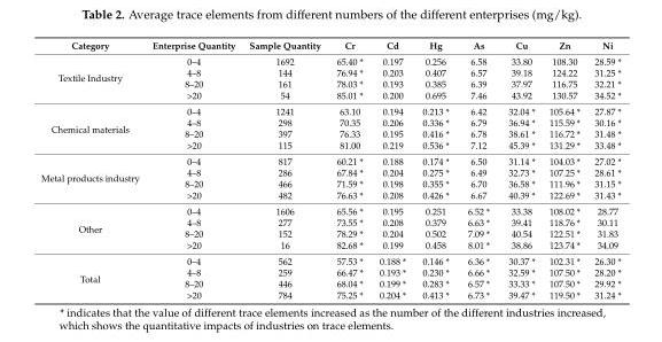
<table><thead><tr><td>Category</td><td>Enterprise Quantity</td><td>Sample Quantity</td><td>Cr</td><td>Cd</td><td>Hg</td><td>As</td><td>Cu</td><td>Zn</td><td>Ni</td></tr></thead><tbody><tr><td rowspan="4">Textile Industry</td><td>0–4</td><td>1692</td><td>65.40 *</td><td>0.197</td><td>0.256</td><td>6.58</td><td>33.80</td><td>108.30</td><td>28.59 *</td></tr><tr><td>4–8</td><td>144</td><td>76.94 *</td><td>0.203</td><td>0.407</td><td>6.57</td><td>39.18</td><td>124.22</td><td>31.25 *</td></tr><tr><td>8–20</td><td>161</td><td>78.03 *</td><td>0.193</td><td>0.385</td><td>6.39</td><td>37.97</td><td>116.75</td><td>32.21 *</td></tr><tr><td>&gt;20</td><td>54</td><td>85.01 *</td><td>0.200</td><td>0.695</td><td>7.46</td><td>43.92</td><td>130.57</td><td>34.52 *</td></tr><tr><td rowspan="4">Chemical materials</td><td>0–4</td><td>1241</td><td>63.10</td><td>0.194</td><td>0.213 *</td><td>6.42</td><td>32.04 *</td><td>105.64 *</td><td>27.87 *</td></tr><tr><td>4–8</td><td>298</td><td>70.35</td><td>0.206</td><td>0.336 *</td><td>6.79</td><td>36.94 *</td><td>115.59 *</td><td>30.16 *</td></tr><tr><td>8–20</td><td>397</td><td>76.33</td><td>0.195</td><td>0.416 *</td><td>6.78</td><td>38.61 *</td><td>116.72 *</td><td>31.48 *</td></tr><tr><td>&gt;20</td><td>115</td><td>81.00</td><td>0.219</td><td>0.536 *</td><td>7.12</td><td>45.39 *</td><td>131.29 *</td><td>33.48 *</td></tr><tr><td rowspan="4">Metal products industry</td><td>0–4</td><td>817</td><td>60.21 *</td><td>0.188</td><td>0.174 *</td><td>6.50</td><td>31.14 *</td><td>104.03 *</td><td>27.02 *</td></tr><tr><td>4–8</td><td>286</td><td>67.84 *</td><td>0.204</td><td>0.275 *</td><td>6.49</td><td>32.73 *</td><td>107.25 *</td><td>28.61 *</td></tr><tr><td>8–20</td><td>466</td><td>71.59 *</td><td>0.198</td><td>0.355 *</td><td>6.70</td><td>36.58 *</td><td>111.96 *</td><td>31.15 *</td></tr><tr><td>&gt;20</td><td>482</td><td>76.63 *</td><td>0.208</td><td>0.426 *</td><td>6.67</td><td>40.39 *</td><td>122.69 *</td><td>31.43 *</td></tr><tr><td rowspan="4">Other</td><td>0–4</td><td>1606</td><td>65.56 *</td><td>0.195</td><td>0.251</td><td>6.52 *</td><td>33.38</td><td>108.02 *</td><td>28.77</td></tr><tr><td>4–8</td><td>277</td><td>73.55 *</td><td>0.208</td><td>0.379</td><td>6.63 *</td><td>39.41</td><td>118.76 *</td><td>30.11</td></tr><tr><td>8–20</td><td>152</td><td>78.29 *</td><td>0.204</td><td>0.502</td><td>7.09 *</td><td>40.54</td><td>122.51 *</td><td>31.83</td></tr><tr><td>&gt;20</td><td>16</td><td>82.68 *</td><td>0.199</td><td>0.458</td><td>8.01 *</td><td>38.86</td><td>123.74 *</td><td>34.09</td></tr><tr><td rowspan="4">Total</td><td>0–4</td><td>562</td><td>57.53 *</td><td>0.188 *</td><td>0.146 *</td><td>6.36 *</td><td>30.37 *</td><td>102.31 *</td><td>26.30 *</td></tr><tr><td>4–8</td><td>259</td><td>66.47 *</td><td>0.193 *</td><td>0.230 *</td><td>6.66 *</td><td>32.59 *</td><td>107.50 *</td><td>28.20 *</td></tr><tr><td>8–20</td><td>446</td><td>68.04 *</td><td>0.199 *</td><td>0.283 *</td><td>6.57 *</td><td>33.33 *</td><td>107.50 *</td><td>29.92 *</td></tr><tr><td>&gt;20</td><td>784</td><td>75.25 *</td><td>0.204 *</td><td>0.413 *</td><td>6.73 *</td><td>39.47 *</td><td>119.50 *</td><td>31.24 *</td></tr></tbody></table>